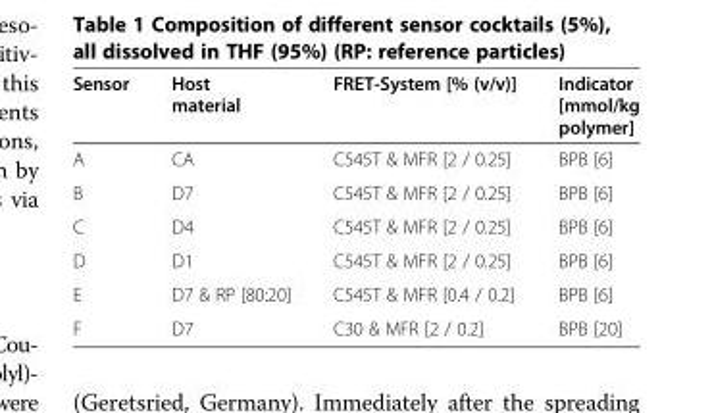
<table><thead><tr><td>Sensor</td><td>Host material</td><td>FRET-System [% (v/v)]</td><td>Indicator [mmol/kg polymer]</td></tr></thead><tbody><tr><td>A</td><td>CA</td><td>C545T &amp; MFR [2 / 0.25]</td><td>BPB [6]</td></tr><tr><td>B</td><td>D7</td><td>C545T &amp; MFR [2 / 0.25]</td><td>BPB [6]</td></tr><tr><td>C</td><td>D4</td><td>C545T &amp; MFR [2 / 0.25]</td><td>BPB [6]</td></tr><tr><td>D</td><td>D1</td><td>C545T &amp; MFR [2 / 0.25]</td><td>BPB [6]</td></tr><tr><td>E</td><td>D7 &amp; RP [80:20]</td><td>C545T &amp; MFR [0.4 / 0.2]</td><td>BPB [6]</td></tr><tr><td>F</td><td>D7</td><td>C30 &amp; MFR [2 / 0.2]</td><td>BPB [20]</td></tr></tbody></table>